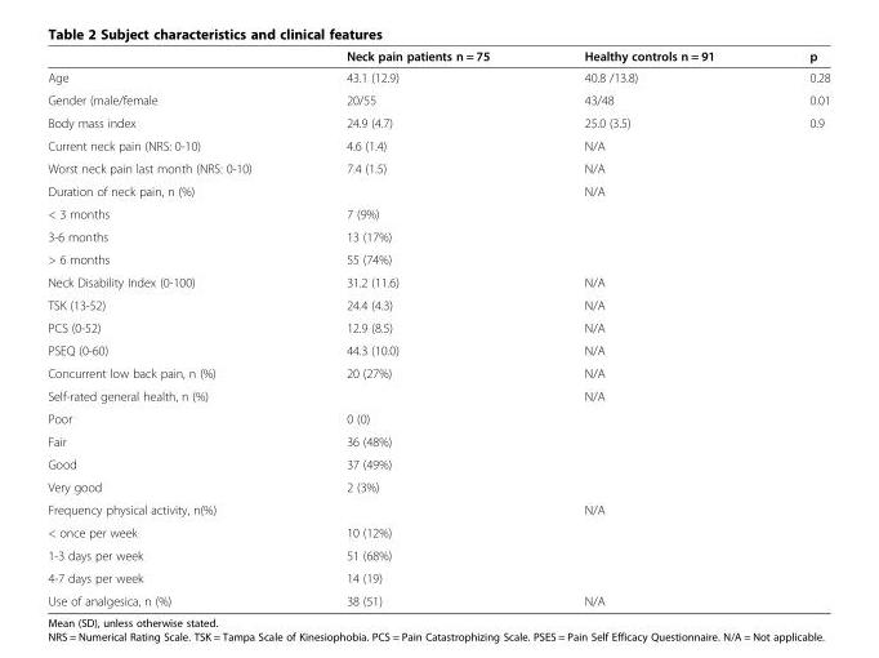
<table><thead><tr><td></td><td>Neck pain patients n = 75</td><td>Healthy controls n = 91</td><td>p</td></tr></thead><tbody><tr><td>Age</td><td>43.1 (12.9)</td><td>40.8 /13.8)</td><td>0.28</td></tr><tr><td>Gender (male/female</td><td>20/55</td><td>43/48</td><td>0.01</td></tr><tr><td>Body mass index</td><td>24.9 (4.7)</td><td>25.0 (3.5)</td><td>0.9</td></tr><tr><td>Current neck pain (NRS: 0-10)</td><td>4.6 (1.4)</td><td>N/A</td><td></td></tr><tr><td>Worst neck pain last month (NRS: 0-10)</td><td>7.4 (1.5)</td><td>N/A</td><td></td></tr><tr><td>Duration of neck pain, n (%)</td><td></td><td>N/A</td><td></td></tr><tr><td>&lt; 3 months</td><td>7 (9%)</td><td></td><td></td></tr><tr><td>3-6 months</td><td>13 (17%)</td><td></td><td></td></tr><tr><td>&gt; 6 months</td><td>55 (74%)</td><td></td><td></td></tr><tr><td>Neck Disability Index (0-100)</td><td>31.2 (11.6)</td><td>N/A</td><td></td></tr><tr><td>TSK (13-52)</td><td>24.4 (4.3)</td><td>N/A</td><td></td></tr><tr><td>PCS (0-52)</td><td>12.9 (8.5)</td><td>N/A</td><td></td></tr><tr><td>PSEQ (0-60)</td><td>44.3 (10.0)</td><td>N/A</td><td></td></tr><tr><td>Concurrent low back pain, n (%)</td><td>20 (27%)</td><td>N/A</td><td></td></tr><tr><td>Self-rated general health, n (%)</td><td></td><td>N/A</td><td></td></tr><tr><td>Poor</td><td>0 (0)</td><td></td><td></td></tr><tr><td>Fair</td><td>36 (48%)</td><td></td><td></td></tr><tr><td>Good</td><td>37 (49%)</td><td></td><td></td></tr><tr><td>Very good</td><td>2 (3%)</td><td></td><td></td></tr><tr><td>Frequency physical activity, n(%)</td><td></td><td>N/A</td><td></td></tr><tr><td>&lt; once per week</td><td>10 (12%)</td><td></td><td></td></tr><tr><td>1-3 days per week</td><td>51 (68%)</td><td></td><td></td></tr><tr><td>4-7 days per week</td><td>14 (19)</td><td></td><td></td></tr><tr><td>Use of analgesica, n (%)</td><td>38 (51)</td><td>N/A</td><td></td></tr></tbody></table>